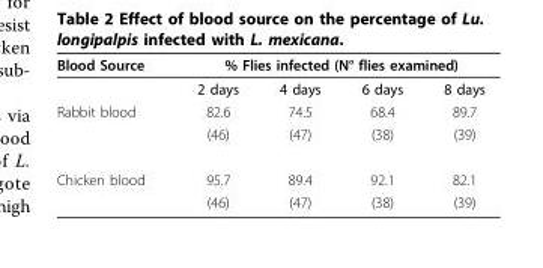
<table><thead><tr><td rowspan="2">Blood Source</td><td colspan="4">% Flies infected (N° flies examined)</td></tr><tr><td>2 days</td><td>4 days</td><td>6 days</td><td>8 days</td></tr></thead><tbody><tr><td rowspan="2">Rabbit blood</td><td>82.6</td><td>74.5</td><td>68.4</td><td>89.7</td></tr><tr><td>(46)</td><td>(47)</td><td>(38)</td><td>(39)</td></tr><tr><td rowspan="2">Chicken blood</td><td>95.7</td><td>89.4</td><td>92.1</td><td>82.1</td></tr><tr><td>(46)</td><td>(47)</td><td>(38)</td><td>(39)</td></tr></tbody></table>